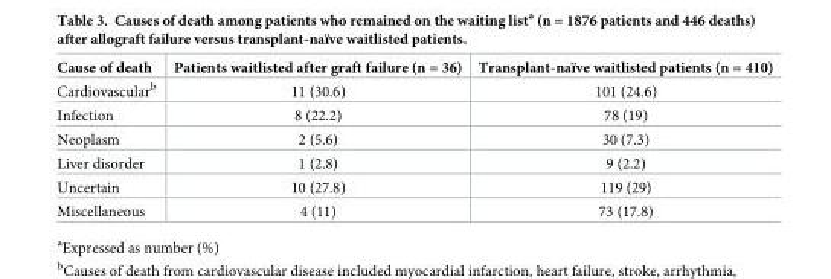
<table><thead><tr><td>Cause of death</td><td>Patients waitlisted after graft failure (n = 36)</td><td>Transplant-naïve waitlisted patients (n = 410)</td></tr></thead><tbody><tr><td>Cardiovascular<sup>b</sup></td><td>11 (30.6)</td><td>101 (24.6)</td></tr><tr><td>Infection</td><td>8 (22.2)</td><td>78 (19)</td></tr><tr><td>Neoplasm</td><td>2 (5.6)</td><td>30 (7.3)</td></tr><tr><td>Liver disorder</td><td>1 (2.8)</td><td>9 (2.2)</td></tr><tr><td>Uncertain</td><td>10 (27.8)</td><td>119 (29)</td></tr><tr><td>Miscellaneous</td><td>4 (11)</td><td>73 (17.8)</td></tr></tbody></table>